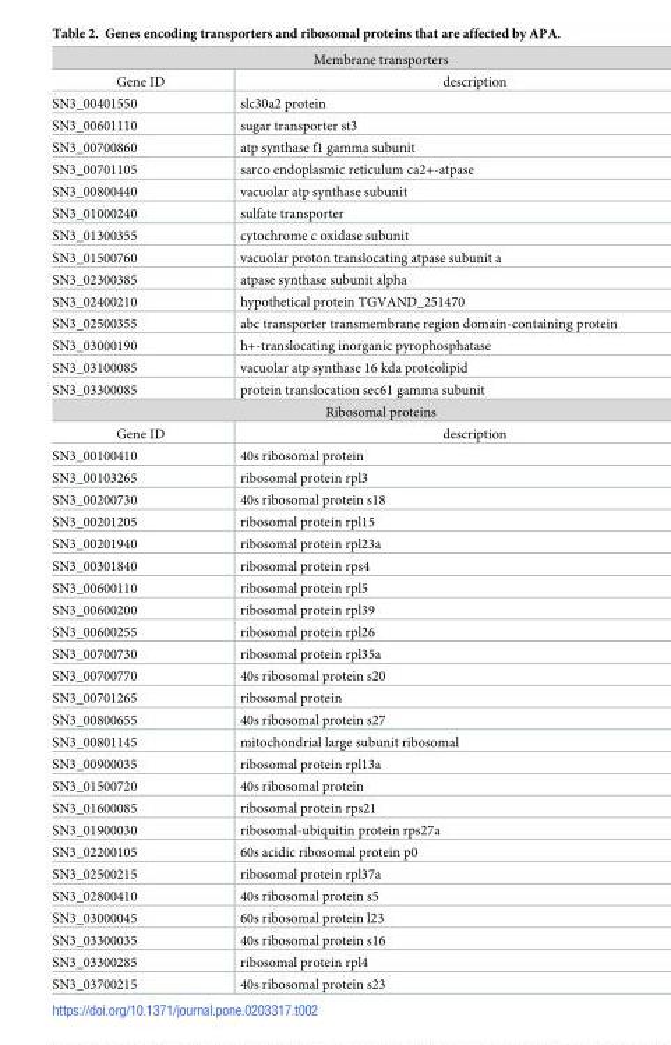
<table><tbody><tr><td colspan="2">Membrane transporters</td></tr><tr><td>Gene ID</td><td>description</td></tr><tr><td>SN3_00401550</td><td>slc30a2 protein</td></tr><tr><td>SN3_00601110</td><td>sugar transporter st3</td></tr><tr><td>SN3_00700860</td><td>atp synthase f1 gamma subunit</td></tr><tr><td>SN3_00701105</td><td>sarco endoplasmic reticulum ca2+-atpase</td></tr><tr><td>SN3_00800440</td><td>vacuolar atp synthase subunit</td></tr><tr><td>SN3_01000240</td><td>sulfate transporter</td></tr><tr><td>SN3_01300355</td><td>cytochrome c oxidase subunit</td></tr><tr><td>SN3_01500760</td><td>vacuolar proton translocating atpase subunit a</td></tr><tr><td>SN3_02300385</td><td>atpase synthase subunit alpha</td></tr><tr><td>SN3_02400210</td><td>hypothetical protein TGVAND_251470</td></tr><tr><td>SN3_02500355</td><td>abc transporter transmembrane region domain-containing protein</td></tr><tr><td>SN3_03000190</td><td>h+-translocating inorganic pyrophosphatase</td></tr><tr><td>SN3_03100085</td><td>vacuolar atp synthase 16 kda proteolipid</td></tr><tr><td>SN3_03300085</td><td>protein translocation sec61 gamma subunit</td></tr><tr><td colspan="2">Ribosomal proteins</td></tr><tr><td>Gene ID</td><td>description</td></tr><tr><td>SN3_00100410</td><td>40s ribosomal protein</td></tr><tr><td>SN3_00103265</td><td>ribosomal protein rpl3</td></tr><tr><td>SN3_00200730</td><td>40s ribosomal protein s18</td></tr><tr><td>SN3_00201205</td><td>ribosomal protein rpl15</td></tr><tr><td>SN3_00201940</td><td>ribosomal protein rpl23a</td></tr><tr><td>SN3_00301840</td><td>ribosomal protein rps4</td></tr><tr><td>SN3_00600110</td><td>ribosomal protein rpl5</td></tr><tr><td>SN3_00600200</td><td>ribosomal protein rpl39</td></tr><tr><td>SN3_00600255</td><td>ribosomal protein rpl26</td></tr><tr><td>SN3_00700730</td><td>ribosomal protein rpl35a</td></tr><tr><td>SN3_00700770</td><td>40s ribosomal protein s20</td></tr><tr><td>SN3_00701265</td><td>ribosomal protein</td></tr><tr><td>SN3_00800655</td><td>40s ribosomal protein s27</td></tr><tr><td>SN3_00801145</td><td>mitochondrial large subunit ribosomal</td></tr><tr><td>SN3_00900035</td><td>ribosomal protein rpl13a</td></tr><tr><td>SN3_01500720</td><td>40s ribosomal protein</td></tr><tr><td>SN3_01600085</td><td>ribosomal protein rps21</td></tr><tr><td>SN3_01900030</td><td>ribosomal-ubiquitin protein rps27a</td></tr><tr><td>SN3_02200105</td><td>60s acidic ribosomal protein p0</td></tr><tr><td>SN3_02500215</td><td>ribosomal protein rpl37a</td></tr><tr><td>SN3_02800410</td><td>40s ribosomal protein s5</td></tr><tr><td>SN3_03000045</td><td>60s ribosomal protein l23</td></tr><tr><td>SN3_03300035</td><td>40s ribosomal protein s16</td></tr><tr><td>SN3_03300285</td><td>ribosomal protein rpl4</td></tr><tr><td>SN3_03700215</td><td>40s ribosomal protein s23</td></tr></tbody></table>